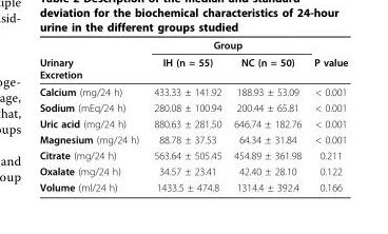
<table><thead><tr><td rowspan="2">Urinary Excretion</td><td colspan="2">Group</td><td rowspan="2">P value</td></tr><tr><td>IH (n = 55)</td><td>NC (n = 50)</td></tr></thead><tbody><tr><td>Calcium (mg/24 h)</td><td>433.33 ± 141.92</td><td>188.93 ± 53.09</td><td>&lt; 0.001</td></tr><tr><td>Sodium (mEq/24 h)</td><td>280.08 ± 100.94</td><td>200.44 ± 65.81</td><td>&lt; 0.001</td></tr><tr><td>Uric acid (mg/24 h)</td><td>880.63 ± 281.50</td><td>646.74 ± 182.76</td><td>&lt; 0.001</td></tr><tr><td>Magnesium (mg/24 h)</td><td>88.78 ± 37.53</td><td>64.34 ± 31.84</td><td>&lt; 0.001</td></tr><tr><td>Citrate (mg/24 h)</td><td>563.64 ± 505.45</td><td>454.89 ± 361.98</td><td>0.211</td></tr><tr><td>Oxalate (mg/24 h)</td><td>34.57 ± 23.41</td><td>42.40 ± 28.10</td><td>0.122</td></tr><tr><td>Volume (ml/24 h)</td><td>1433.5 ± 474.8</td><td>1314.4 ± 392.4</td><td>0.166</td></tr></tbody></table>